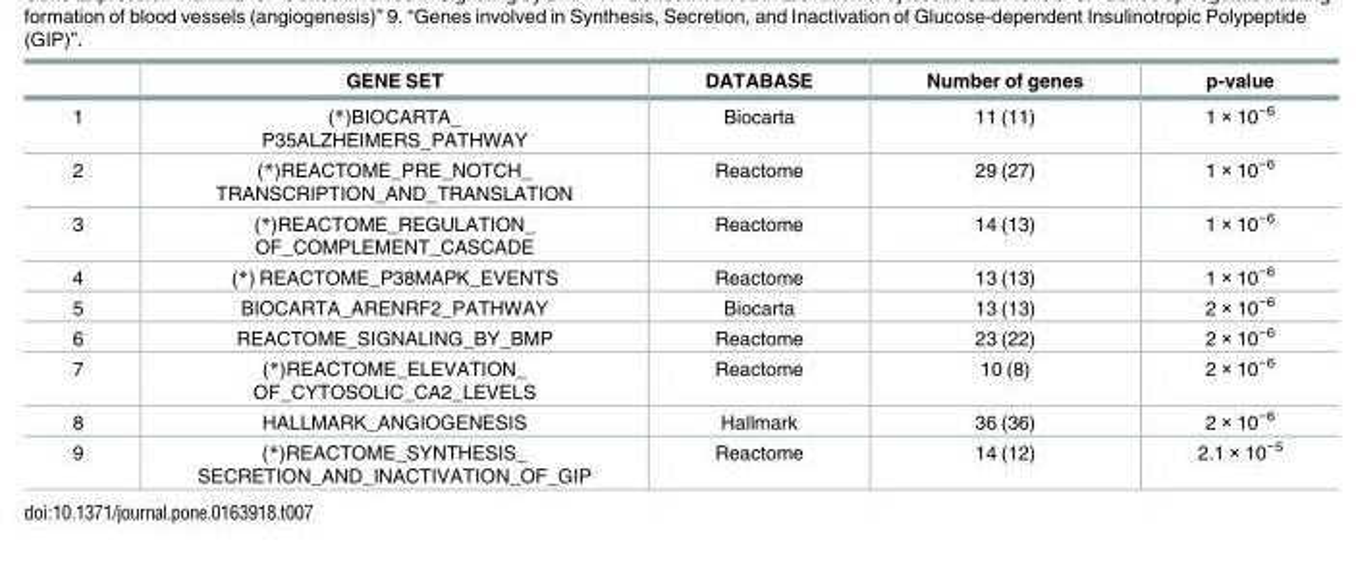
<table><thead><tr><td></td><td>GENE SET</td><td>DATABASE</td><td>Number of genes</td><td>p-value</td></tr></thead><tbody><tr><td>1</td><td>(*)BIOCARTA_ P35ALZHEIMERS_PATHWAY</td><td>Biocarta</td><td>11 (11)</td><td>1 × 10<sup>−6</sup></td></tr><tr><td>2</td><td>(*)REACTOME_PRE_NOTCH_ TRANSCRIPTION_AND_TRANSLATION</td><td>Reactome</td><td>29 (27)</td><td>1 × 10<sup>−6</sup></td></tr><tr><td>3</td><td>(*)REACTOME_REGULATION_ OF_COMPLEMENT_CASCADE</td><td>Reactome</td><td>14 (13)</td><td>1 × 10<sup>−6</sup></td></tr><tr><td>4</td><td>(*) REACTOME_P38MAPK_EVENTS</td><td>Reactome</td><td>13 (13)</td><td>1 × 10<sup>−6</sup></td></tr><tr><td>5</td><td>BIOCARTA_ARENRF2_PATHWAY</td><td>Biocarta</td><td>13 (13)</td><td>2 × 10<sup>−6</sup></td></tr><tr><td>6</td><td>REACTOME_SIGNALING_BY_BMP</td><td>Reactome</td><td>23 (22)</td><td>2 × 10<sup>−6</sup></td></tr><tr><td>7</td><td>(*)REACTOME_ELEVATION_ OF_CYTOSOLIC_CA2_LEVELS</td><td>Reactome</td><td>10 (8)</td><td>2 × 10<sup>−6</sup></td></tr><tr><td>8</td><td>HALLMARK_ANGIOGENESIS</td><td>Hallmark</td><td>36 (36)</td><td>2 × 10<sup>−6</sup></td></tr><tr><td>9</td><td>(*)REACTOME_SYNTHESIS_ SECRETION_AND_INACTIVATION_OF_GIP</td><td>Reactome</td><td>14 (12)</td><td>2.1 × 10<sup>−5</sup></td></tr></tbody></table>